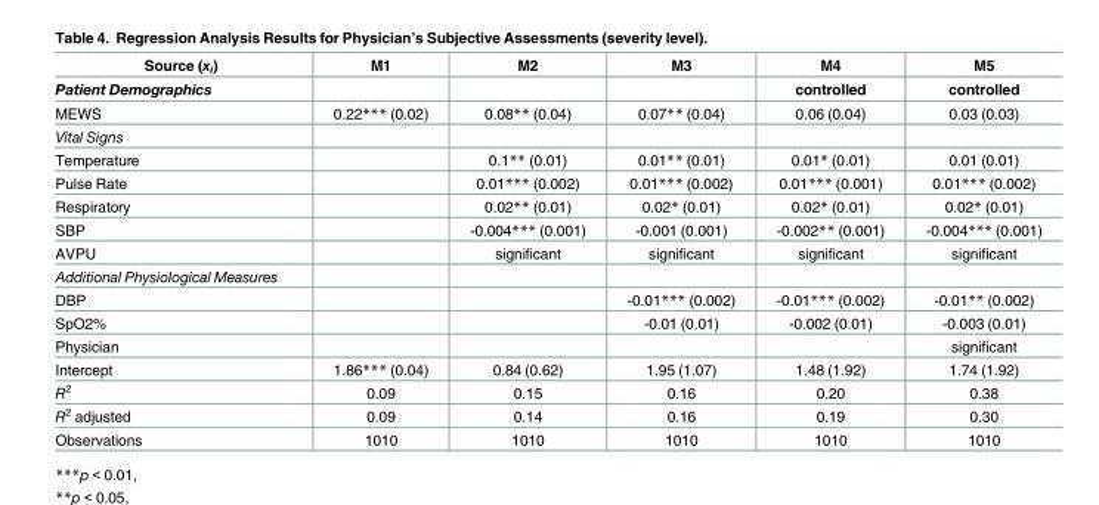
<table><thead><tr><td rowspan="2">Source (x<sub>i</sub>) Patient Demographics</td><td rowspan="2">M1</td><td rowspan="2">M2</td><td rowspan="2">M3</td><td rowspan="2">M4 controlled</td><td rowspan="2">M5 controlled</td></tr><tr></tr></thead><tbody><tr><td>MEWS</td><td>0.22*** (0.02)</td><td>0.08** (0.04)</td><td>0.07** (0.04)</td><td>0.06 (0.04)</td><td>0.03 (0.03)</td></tr><tr><td colspan="6">Vital Signs</td></tr><tr><td>Temperature</td><td></td><td>0.1** (0.01)</td><td>0.01** (0.01)</td><td>0.01* (0.01)</td><td>0.01 (0.01)</td></tr><tr><td>Pulse Rate</td><td></td><td>0.01*** (0.002)</td><td>0.01*** (0.002)</td><td>0.01*** (0.001)</td><td>0.01*** (0.002)</td></tr><tr><td>Respiratory</td><td></td><td>0.02** (0.01)</td><td>0.02* (0.01)</td><td>0.02* (0.01)</td><td>0.02* (0.01)</td></tr><tr><td>SBP</td><td></td><td>-0.004*** (0.001)</td><td>-0.001 (0.001)</td><td>-0.002** (0.001)</td><td>-0.004*** (0.001)</td></tr><tr><td>AVPU</td><td></td><td>significant</td><td>significant</td><td>significant</td><td>significant</td></tr><tr><td colspan="6">Additional Physiological Measures</td></tr><tr><td>DBP</td><td></td><td></td><td>-0.01*** (0.002)</td><td>-0.01*** (0.002)</td><td>-0.01** (0.002)</td></tr><tr><td>SpO2%</td><td></td><td></td><td>-0.01 (0.01)</td><td>-0.002 (0.01)</td><td>-0.003 (0.01)</td></tr><tr><td>Physician</td><td></td><td></td><td></td><td></td><td>significant</td></tr><tr><td>Intercept</td><td>1.86*** (0.04)</td><td>0.84 (0.62)</td><td>1.95 (1.07)</td><td>1.48 (1.92)</td><td>1.74 (1.92)</td></tr><tr><td>R<sup>2</sup></td><td>0.09</td><td>0.15</td><td>0.16</td><td>0.20</td><td>0.38</td></tr><tr><td>R<sup>2</sup> adjusted</td><td>0.09</td><td>0.14</td><td>0.16</td><td>0.19</td><td>0.30</td></tr><tr><td>Observations</td><td>1010</td><td>1010</td><td>1010</td><td>1010</td><td>1010</td></tr></tbody></table>